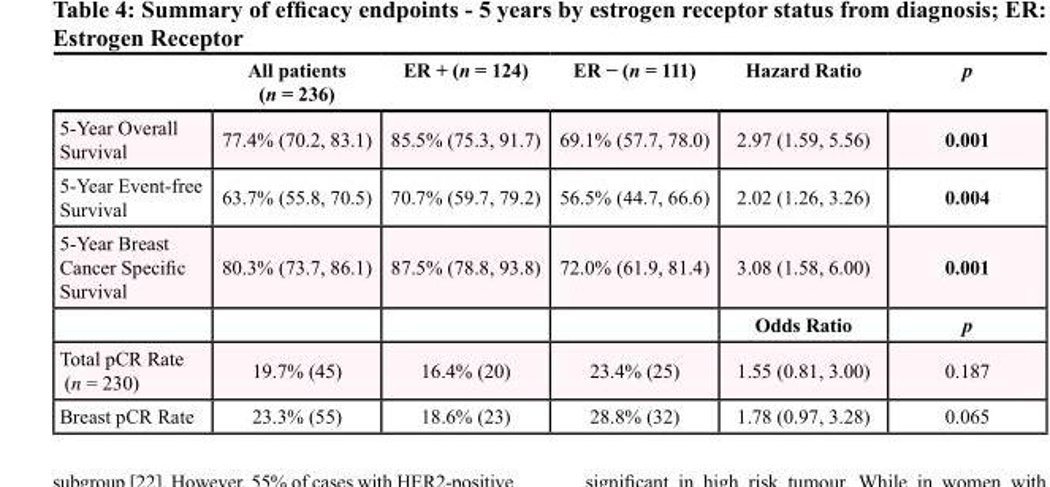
<table><thead><tr><td></td><td>All patients (n = 236)</td><td>ER + (n = 124)</td><td>ER − (n = 111)</td><td>Hazard Ratio</td><td>p</td></tr></thead><tbody><tr><td>5-Year Overall Survival</td><td>77.4% (70.2, 83.1)</td><td>85.5% (75.3, 91.7)</td><td>69.1% (57.7, 78.0)</td><td>2.97 (1.59, 5.56)</td><td>0.001</td></tr><tr><td>5-Year Event-free Survival</td><td>63.7% (55.8, 70.5)</td><td>70.7% (59.7, 79.2)</td><td>56.5% (44.7, 66.6)</td><td>2.02 (1.26, 3.26)</td><td>0.004</td></tr><tr><td rowspan="2">5-Year Breast Cancer Specific Survival</td><td>80.3% (73.7, 86.1)</td><td>87.5% (78.8, 93.8)</td><td>72.0% (61.9, 81.4)</td><td>3.08 (1.58, 6.00)</td><td>0.001</td></tr><tr><td></td><td></td><td></td><td>Odds Ratio</td><td>p</td></tr><tr><td>Total pCR Rate (n = 230)</td><td>19.7% (45)</td><td>16.4% (20)</td><td>23.4% (25)</td><td>1.55 (0.81, 3.00)</td><td>0.187</td></tr><tr><td>Breast pCR Rate</td><td>23.3% (55)</td><td>18.6% (23)</td><td>28.8% (32)</td><td>1.78 (0.97, 3.28)</td><td>0.065</td></tr></tbody></table>